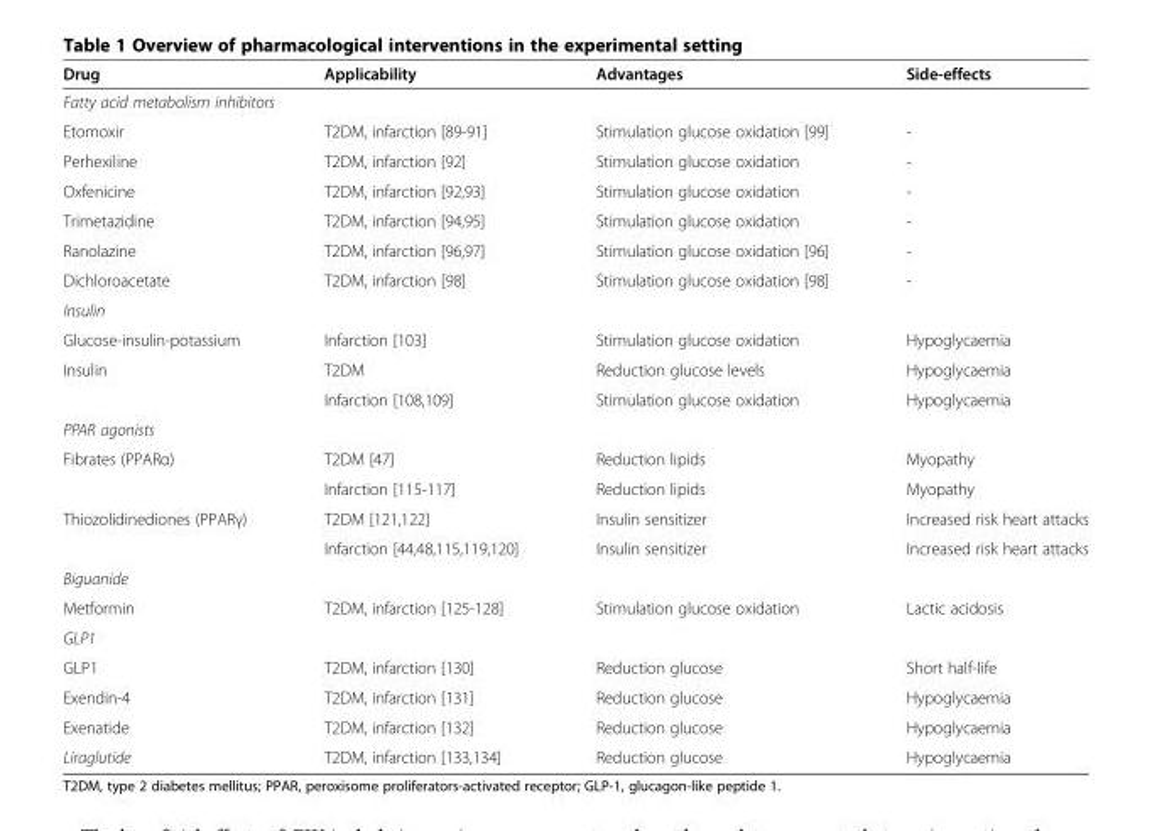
<table><thead><tr><td>Drug</td><td>Applicability</td><td>Advantages</td><td>Side-effects</td></tr></thead><tbody><tr><td colspan="4">Fatty acid metabolism inhibitors</td></tr><tr><td>Etomoxir</td><td>T2DM, infarction [89-91]</td><td>Stimulation glucose oxidation [99]</td><td>-</td></tr><tr><td>Perhexiline</td><td>T2DM, infarction [92]</td><td>Stimulation glucose oxidation</td><td>-</td></tr><tr><td>Oxfenicine</td><td>T2DM, infarction [92,93]</td><td>Stimulation glucose oxidation</td><td>-</td></tr><tr><td>Trimetazidine</td><td>T2DM, infarction [94,95]</td><td>Stimulation glucose oxidation</td><td>-</td></tr><tr><td>Ranolazine</td><td>T2DM, infarction [96,97]</td><td>Stimulation glucose oxidation [96]</td><td>-</td></tr><tr><td>Dichloroacetate</td><td>T2DM, infarction [98]</td><td>Stimulation glucose oxidation [98]</td><td>-</td></tr><tr><td colspan="4">Insulin</td></tr><tr><td>Glucose-insulin-potassium</td><td>Infarction [103]</td><td>Stimulation glucose oxidation</td><td>Hypoglycaemia</td></tr><tr><td rowspan="2">Insulin</td><td>T2DM</td><td>Reduction glucose levels</td><td>Hypoglycaemia</td></tr><tr><td>Infarction [108,109]</td><td>Stimulation glucose oxidation</td><td>Hypoglycaemia</td></tr><tr><td colspan="4">PPAR agonists</td></tr><tr><td rowspan="2">Fibrates (PPARα)</td><td>T2DM [47]</td><td>Reduction lipids</td><td>Myopathy</td></tr><tr><td>Infarction [115-117]</td><td>Reduction lipids</td><td>Myopathy</td></tr><tr><td rowspan="2">Thiozolidinediones (PPARγ)</td><td>T2DM [121,122]</td><td>Insulin sensitizer</td><td>Increased risk heart attacks</td></tr><tr><td>Infarction [44,48,115,119,120]</td><td>Insulin sensitizer</td><td>Increased risk heart attacks</td></tr><tr><td colspan="4">Biguanide</td></tr><tr><td>Metformin</td><td>T2DM, infarction [125-128]</td><td>Stimulation glucose oxidation</td><td>Lactic acidosis</td></tr><tr><td colspan="4">GLP1</td></tr><tr><td>GLP1</td><td>T2DM, infarction [130]</td><td>Reduction glucose</td><td>Short half-life</td></tr><tr><td>Exendin-4</td><td>T2DM, infarction [131]</td><td>Reduction glucose</td><td>Hypoglycaemia</td></tr><tr><td>Exenatide</td><td>T2DM, infarction [132]</td><td>Reduction glucose</td><td>Hypoglycaemia</td></tr><tr><td>Liraglutide</td><td>T2DM, infarction [133,134]</td><td>Reduction glucose</td><td>Hypoglycaemia</td></tr></tbody></table>